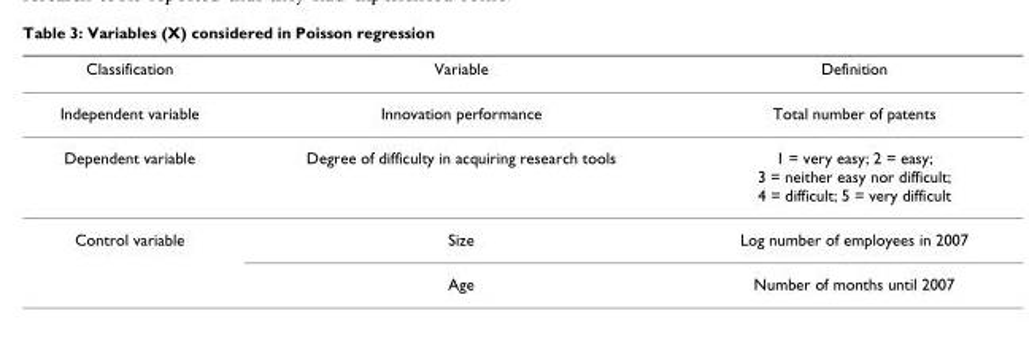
<table><thead><tr><td>Classification</td><td>Variable</td><td>Definition</td></tr></thead><tbody><tr><td>Independent variable</td><td>Innovation performance</td><td>Total number of patents</td></tr><tr><td>Dependent variable</td><td>Degree of difficulty in acquiring research tools</td><td>1 = very easy; 2 = easy; 3 = neither easy nor difficult; 4 = difficult; 5 = very difficult</td></tr><tr><td rowspan="2">Control variable</td><td>Size</td><td>Log number of employees in 2007</td></tr><tr><td>Age</td><td>Number of months until 2007</td></tr></tbody></table>